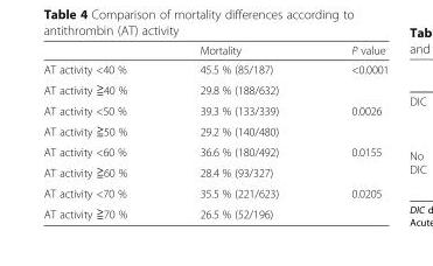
<table><thead><tr><td></td><td>Mortality</td><td>P value</td></tr></thead><tbody><tr><td>AT activity &lt;40 %</td><td>45.5 % (85/187)</td><td rowspan="2">&lt;0.0001</td></tr><tr><td>AT activity ≧40 %</td><td>29.8 % (188/632)</td></tr><tr><td>AT activity &lt;50 %</td><td>39.3 % (133/339)</td><td rowspan="2">0.0026</td></tr><tr><td>AT activity ≧50 %</td><td>29.2 % (140/480)</td></tr><tr><td>AT activity &lt;60 %</td><td>36.6 % (180/492)</td><td rowspan="2">0.0155</td></tr><tr><td>AT activity ≧60 %</td><td>28.4 % (93/327)</td></tr><tr><td>AT activity &lt;70 %</td><td>35.5 % (221/623)</td><td rowspan="2">0.0205</td></tr><tr><td>AT activity ≧70 %</td><td>26.5 % (52/196)</td></tr></tbody></table>